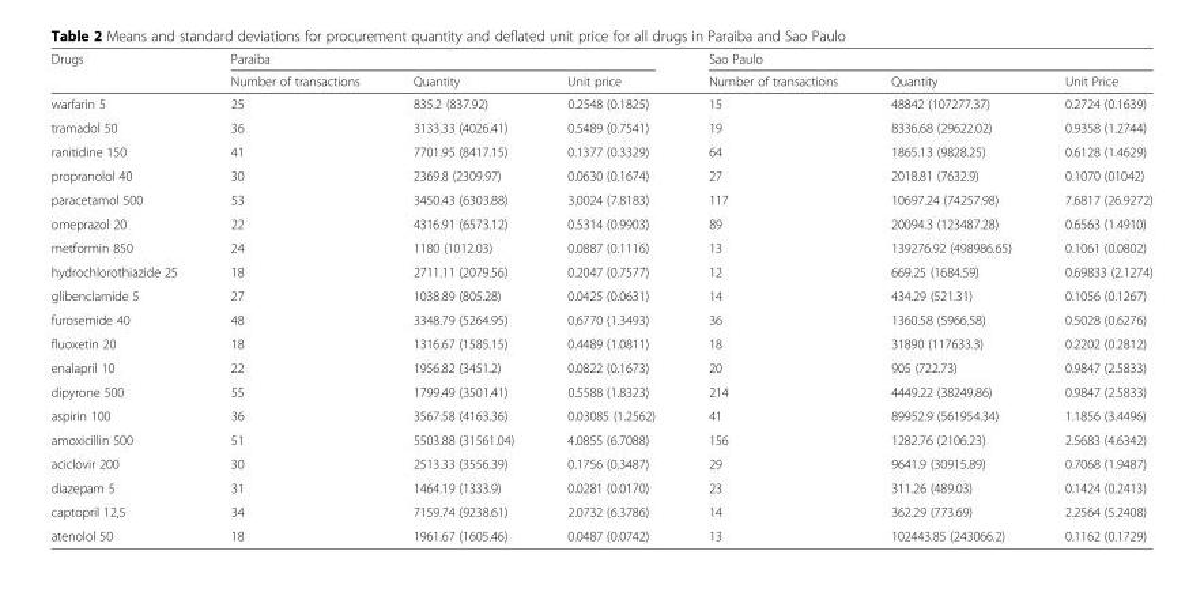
<table><thead><tr><td rowspan="2">Drugs</td><td colspan="3">Paraiba</td><td colspan="3">Sao Paulo</td></tr><tr><td>Number of transactions</td><td>Quantity</td><td>Unit price</td><td>Number of transactions</td><td>Quantity</td><td>Unit Price</td></tr></thead><tbody><tr><td>warfarin 5</td><td>25</td><td>835.2 (837.92)</td><td>0.2548 (0.1825)</td><td>15</td><td>48842 (107277.37)</td><td>0.2724 (0.1639)</td></tr><tr><td>tramadol 50</td><td>36</td><td>3133.33 (4026.41)</td><td>0.5489 (0.7541)</td><td>19</td><td>8336.68 (29622.02)</td><td>0.9358 (1.2744)</td></tr><tr><td>ranitidine 150</td><td>41</td><td>7701.95 (8417.15)</td><td>0.1377 (0.3329)</td><td>64</td><td>1865.13 (9828.25)</td><td>0.6128 (1.4629)</td></tr><tr><td>propranolol 40</td><td>30</td><td>2369.8 (2309.97)</td><td>0.0630 (0.1674)</td><td>27</td><td>2018.81 (7632.9)</td><td>0.1070 (01042)</td></tr><tr><td>paracetamol 500</td><td>53</td><td>3450.43 (6303.88)</td><td>3.0024 (7.8183)</td><td>117</td><td>10697.24 (74257.98)</td><td>7.6817 (26.9272)</td></tr><tr><td>omeprazol 20</td><td>22</td><td>4316.91 (6573.12)</td><td>0.5314 (0.9903)</td><td>89</td><td>20094.3 (123487.28)</td><td>0.6563 (1.4910)</td></tr><tr><td>metformin 850</td><td>24</td><td>1180 (1012.03)</td><td>0.0887 (0.1116)</td><td>13</td><td>139276.92 (498986.65)</td><td>0.1061 (0.0802)</td></tr><tr><td>hydrochlorothiazide 25</td><td>18</td><td>2711.11 (2079.56)</td><td>0.2047 (0.7577)</td><td>12</td><td>669.25 (1684.59)</td><td>0.69833 (2.1274)</td></tr><tr><td>glibenclamide 5</td><td>27</td><td>1038.89 (805.28)</td><td>0.0425 (0.0631)</td><td>14</td><td>434.29 (521.31)</td><td>0.1056 (0.1267)</td></tr><tr><td>furosemide 40</td><td>48</td><td>3348.79 (5264.95)</td><td>0.6770 (1.3493)</td><td>36</td><td>1360.58 (5966.58)</td><td>0.5028 (0.6276)</td></tr><tr><td>fluoxetin 20</td><td>18</td><td>1316.67 (1585.15)</td><td>0.4489 (1.0811)</td><td>18</td><td>31890 (117633.3)</td><td>0.2202 (0.2812)</td></tr><tr><td>enalapril 10</td><td>22</td><td>1956.82 (3451.2)</td><td>0.0822 (0.1673)</td><td>20</td><td>905 (722.73)</td><td>0.9847 (2.5833)</td></tr><tr><td>dipyrone 500</td><td>55</td><td>1799.49 (3501.41)</td><td>0.5588 (1.8323)</td><td>214</td><td>4449.22 (38249.86)</td><td>0.9847 (2.5833)</td></tr><tr><td>aspirin 100</td><td>36</td><td>3567.58 (4163.36)</td><td>0.03085 (1.2562)</td><td>41</td><td>89952.9 (561954.34)</td><td>1.1856 (3.4496)</td></tr><tr><td>amoxicillin 500</td><td>51</td><td>5503.88 (31561.04)</td><td>4.0855 (6.7088)</td><td>156</td><td>1282.76 (2106.23)</td><td>2.5683 (4.6342)</td></tr><tr><td>aciclovir 200</td><td>30</td><td>2513.33 (3556.39)</td><td>0.1756 (0.3487)</td><td>29</td><td>9641.9 (30915.89)</td><td>0.7068 (1.9487)</td></tr><tr><td>diazepam 5</td><td>31</td><td>1464.19 (1333.9)</td><td>0.0281 (0.0170)</td><td>23</td><td>311.26 (489.03)</td><td>0.1424 (0.2413)</td></tr><tr><td>captopril 12,5</td><td>34</td><td>7159.74 (9238.61)</td><td>2.0732 (6.3786)</td><td>14</td><td>362.29 (773.69)</td><td>2.2564 (5.2408)</td></tr><tr><td>atenolol 50</td><td>18</td><td>1961.67 (1605.46)</td><td>0.0487 (0.0742)</td><td>13</td><td>102443.85 (243066.2)</td><td>0.1162 (0.1729)</td></tr></tbody></table>